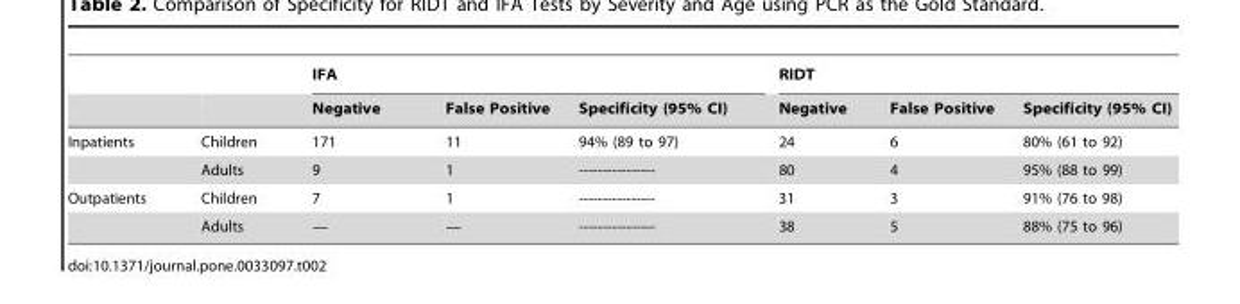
<table><thead><tr><td rowspan="2"></td><td rowspan="2"></td><td colspan="3">IFA</td><td colspan="3">RIDT</td></tr><tr><td>Negative</td><td>False Positive</td><td>Specificity (95% CI)</td><td>Negative</td><td>False Positive</td><td>Specificity (95% CI)</td></tr></thead><tbody><tr><td rowspan="2">Inpatients</td><td>Children</td><td>171</td><td>11</td><td>94% (89 to 97)</td><td>24</td><td>6</td><td>80% (61 to 92)</td></tr><tr><td>Adults</td><td>9</td><td>1</td><td>----------------</td><td>80</td><td>4</td><td>95% (88 to 99)</td></tr><tr><td rowspan="2">Outpatients</td><td>Children</td><td>7</td><td>1</td><td>----------------</td><td>31</td><td>3</td><td>91% (76 to 98)</td></tr><tr><td>Adults</td><td>—</td><td>—</td><td>----------------</td><td>38</td><td>5</td><td>88% (75 to 96)</td></tr></tbody></table>